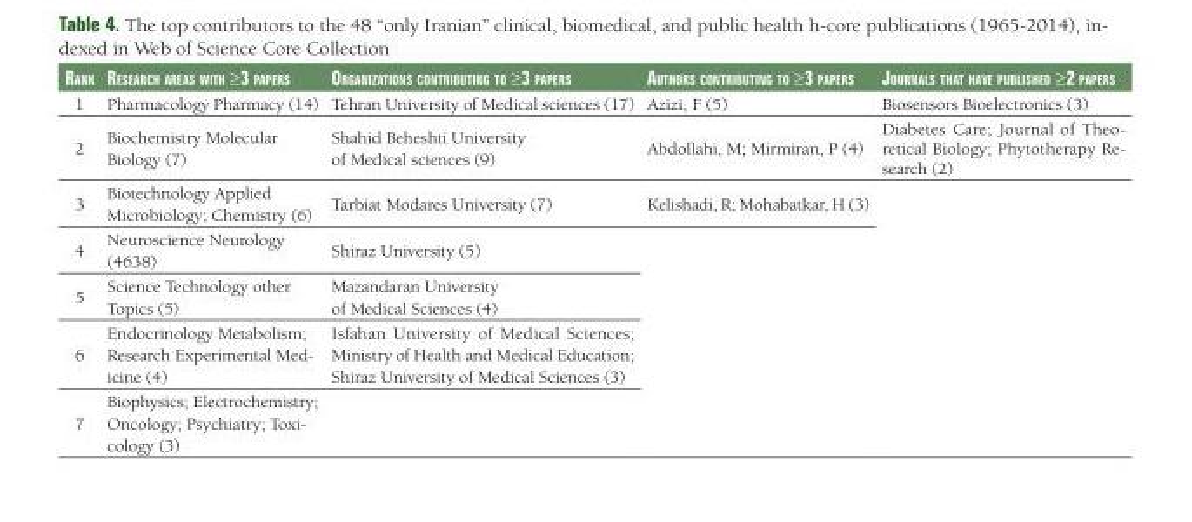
<table><thead><tr><td>Rank</td><td>ReseaRch aReas with ≥3 papeRs</td><td>oRganizations contRibuting to ≥3 papeRs</td><td>authoRs contRibuting to ≥3 papeRs</td><td>JouRnals that have published ≥2 papeRs</td></tr></thead><tbody><tr><td>1</td><td>Pharmacology Pharmacy (14)</td><td>Tehran University of Medical sciences (17)</td><td>Azizi, F (5)</td><td>Biosensors Bioelectronics (3)</td></tr><tr><td>2</td><td>Biochemistry Molecular Biology (7)</td><td>Shahid Beheshti University of Medical sciences (9)</td><td>Abdollahi, M; Mirmiran, P (4)</td><td>Diabetes Care; Journal of Theo- retical Biology; Phytotherapy Re- search (2)</td></tr><tr><td>3</td><td>Biotechnology Applied Microbiology; Chemistry (6)</td><td>Tarbiat Modares University (7)</td><td>Kelishadi, R; Mohabatkar, H (3)</td><td rowspan="5"></td></tr><tr><td>4</td><td>Neuroscience Neurology (4638)</td><td>Shiraz University (5)</td><td rowspan="4"></td></tr><tr><td>5</td><td>Science Technology other Topics (5)</td><td>Mazandaran University of Medical Sciences (4)</td></tr><tr><td>6</td><td>Endocrinology Metabolism; Research Experimental Med- icine (4)</td><td>Isfahan University of Medical Sciences; Ministry of Health and Medical Education; Shiraz University of Medical Sciences (3)</td></tr><tr><td>7</td><td>Biophysics; Electrochemistry; Oncology; Psychiatry; Toxi- cology (3)</td><td></td></tr></tbody></table>